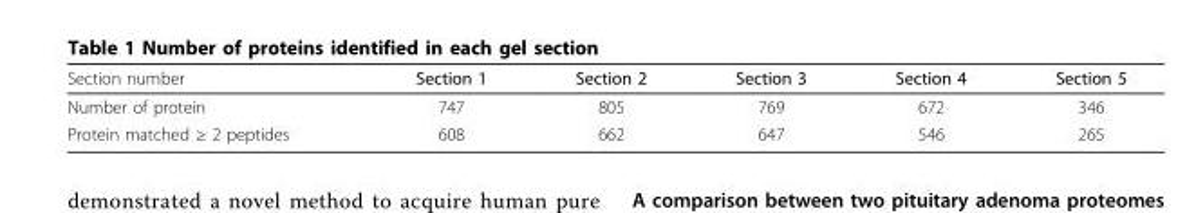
<table><thead><tr><td>Section number</td><td>Section 1</td><td>Section 2</td><td>Section 3</td><td>Section 4</td><td>Section 5</td></tr></thead><tbody><tr><td>Number of protein</td><td>747</td><td>805</td><td>769</td><td>672</td><td>346</td></tr><tr><td>Protein matched ≥ 2 peptides</td><td>608</td><td>662</td><td>647</td><td>546</td><td>265</td></tr></tbody></table>